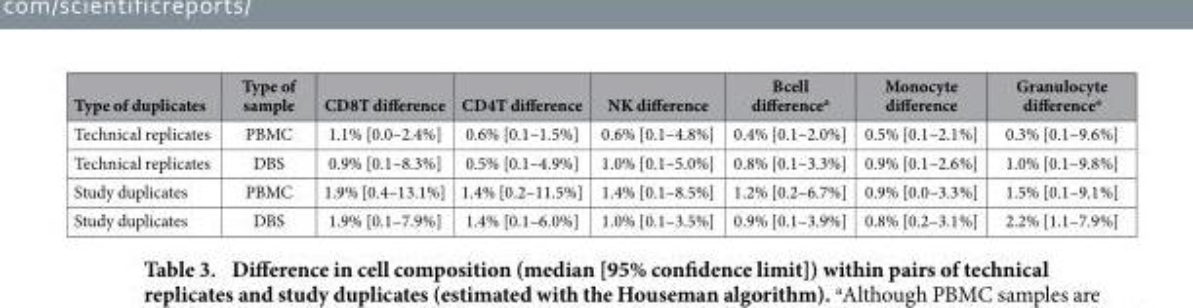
<table><thead><tr><td>Type of duplicates</td><td>Type of sample</td><td>CD8T difference</td><td>CD4T difference</td><td>NK difference</td><td>Bcell difference<sup>a</sup></td><td>Monocyte difference</td><td>Granulocyte difference<sup>a</sup></td></tr></thead><tbody><tr><td>Technical replicates</td><td>PBMC</td><td>1.1% [0.0–2.4%]</td><td>0.6% [0.1–1.5%]</td><td>0.6% [0.1–4.8%]</td><td>0.4% [0.1–2.0%]</td><td>0.5% [0.1–2.1%]</td><td>0.3% [0.1–9.6%]</td></tr><tr><td>Technical replicates</td><td>DBS</td><td>0.9% [0.1–8.3%]</td><td>0.5% [0.1–4.9%]</td><td>1.0% [0.1–5.0%]</td><td>0.8% [0.1–3.3%]</td><td>0.9% [0.1–2.6%]</td><td>1.0% [0.1–9.8%]</td></tr><tr><td>Study duplicates</td><td>PBMC</td><td>1.9% [0.4–13.1%]</td><td>1.4% [0.2–11.5%]</td><td>1.4% [0.1–8.5%]</td><td>1.2% [0.2–6.7%]</td><td>0.9% [0.0–3.3%]</td><td>1.5% [0.1–9.1%]</td></tr><tr><td>Study duplicates</td><td>DBS</td><td>1.9% [0.1–7.9%]</td><td>1.4% [0.1–6.0%]</td><td>1.0% [0.1–3.5%]</td><td>0.9% [0.1–3.9%]</td><td>0.8% [0.2–3.1%]</td><td>2.2% [1.1–7.9%]</td></tr></tbody></table>